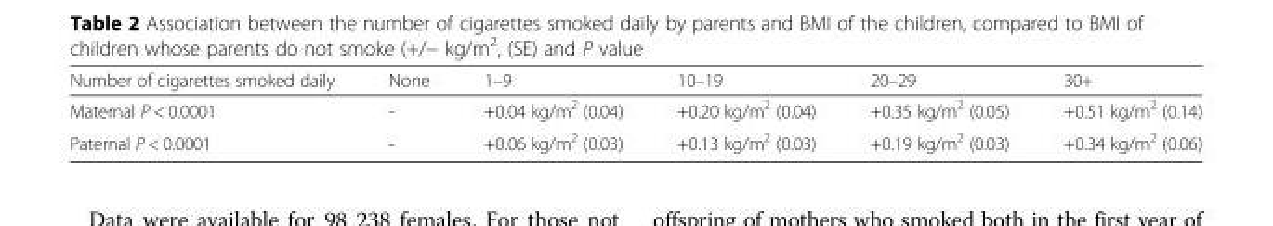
<table><thead><tr><td>Number of cigarettes smoked daily</td><td>None</td><td>1–9</td><td>10–19</td><td>20–29</td><td>30+</td></tr></thead><tbody><tr><td>Maternal P &lt; 0.0001</td><td>-</td><td>+0.04 kg/m<sup>2</sup> (0.04)</td><td>+0.20 kg/m<sup>2</sup> (0.04)</td><td>+0.35 kg/m<sup>2</sup> (0.05)</td><td>+0.51 kg/m<sup>2</sup> (0.14)</td></tr><tr><td>Paternal P &lt; 0.0001</td><td>-</td><td>+0.06 kg/m<sup>2</sup> (0.03)</td><td>+0.13 kg/m<sup>2</sup> (0.03)</td><td>+0.19 kg/m<sup>2</sup> (0.03)</td><td>+0.34 kg/m<sup>2</sup> (0.06)</td></tr></tbody></table>